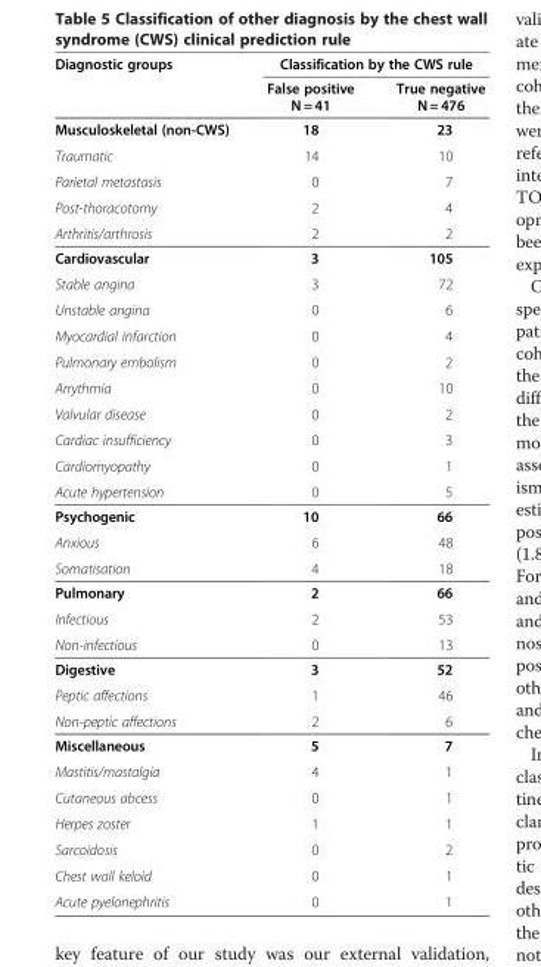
<table><thead><tr><td rowspan="2">Diagnostic groups</td><td colspan="2">Classification by the CWS rule</td></tr><tr><td>False positive N = 41</td><td>True negative N = 476</td></tr></thead><tbody><tr><td>Musculoskeletal (non-CWS)</td><td>18</td><td>23</td></tr><tr><td>Traumatic</td><td>14</td><td>10</td></tr><tr><td>Parietal metastasis</td><td>0</td><td>7</td></tr><tr><td>Post-thoracotomy</td><td>2</td><td>4</td></tr><tr><td>Arthritis/arthrosis</td><td>2</td><td>2</td></tr><tr><td>Cardiovascular</td><td>3</td><td>105</td></tr><tr><td>Stable angina</td><td>3</td><td>72</td></tr><tr><td>Unstable angina</td><td>0</td><td>6</td></tr><tr><td>Myocardial infarction</td><td>0</td><td>4</td></tr><tr><td>Pulmonary embolism</td><td>0</td><td>2</td></tr><tr><td>Arrythmia</td><td>0</td><td>10</td></tr><tr><td>Valvular disease</td><td>0</td><td>2</td></tr><tr><td>Cardiac insufficiency</td><td>0</td><td>3</td></tr><tr><td>Cardiomyopathy</td><td>0</td><td>1</td></tr><tr><td>Acute hypertension</td><td>0</td><td>5</td></tr><tr><td>Psychogenic</td><td>10</td><td>66</td></tr><tr><td>Anxious</td><td>6</td><td>48</td></tr><tr><td>Somatisation</td><td>4</td><td>18</td></tr><tr><td>Pulmonary</td><td>2</td><td>66</td></tr><tr><td>Infectious</td><td>2</td><td>53</td></tr><tr><td>Non-infectious</td><td>0</td><td>13</td></tr><tr><td>Digestive</td><td>3</td><td>52</td></tr><tr><td>Peptic affections</td><td>1</td><td>46</td></tr><tr><td>Non-peptic affections</td><td>2</td><td>6</td></tr><tr><td>Miscellaneous</td><td>5</td><td>7</td></tr><tr><td>Mastitis/mastalgia</td><td>4</td><td>1</td></tr><tr><td>Cutaneous abcess</td><td>0</td><td>1</td></tr><tr><td>Herpes zoster</td><td>1</td><td>1</td></tr><tr><td>Sarcoidosis</td><td>0</td><td>2</td></tr><tr><td>Chest wall keloid</td><td>0</td><td>1</td></tr><tr><td>Acute pyelonephritis</td><td>0</td><td>1</td></tr></tbody></table>